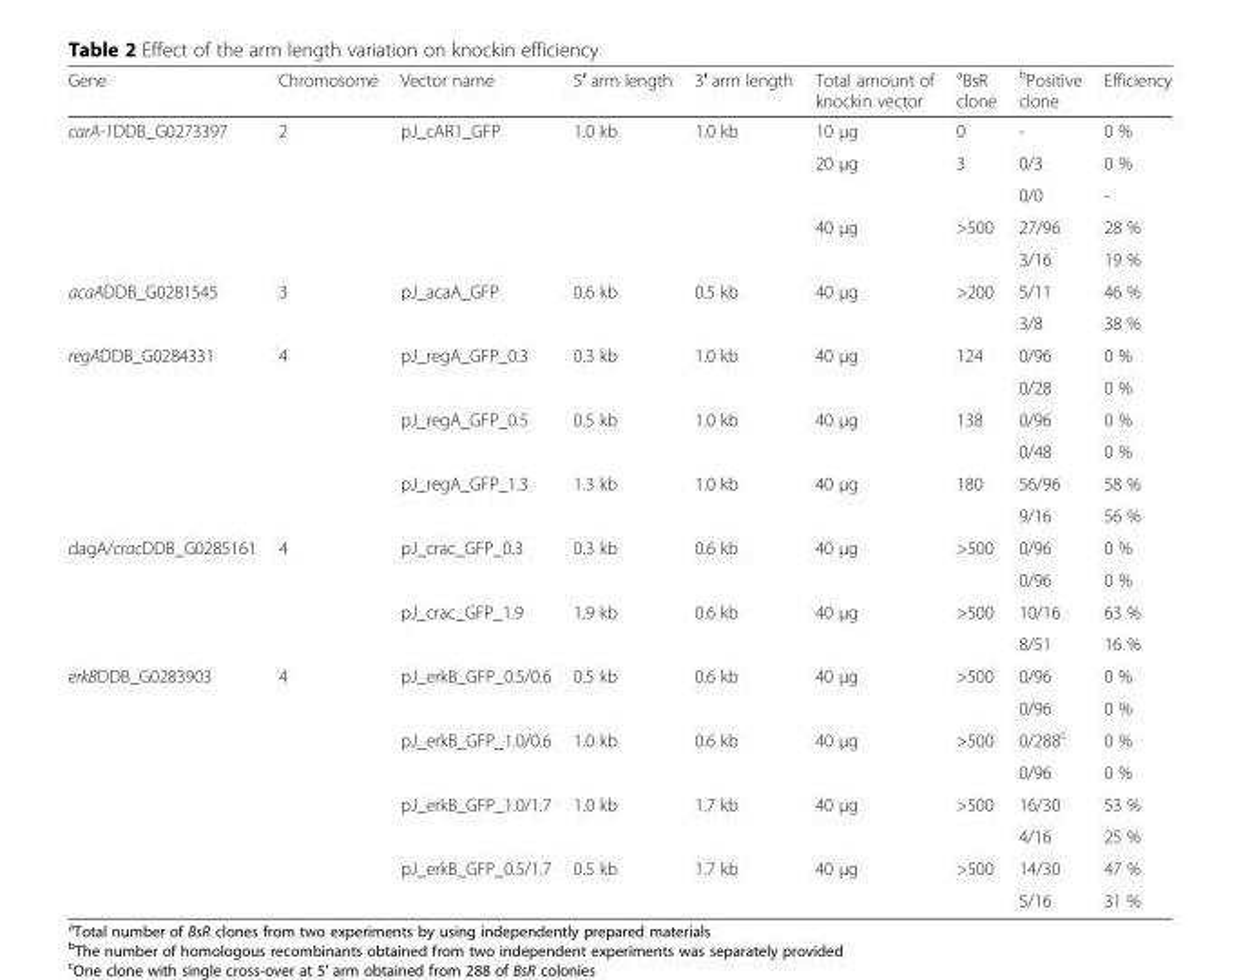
<table><thead><tr><td>Gene</td><td>Chromosome</td><td>Vector name</td><td>5′ arm length</td><td>3′ arm length</td><td>Total amount of knockin vector</td><td><sup>a</sup>BsR clone</td><td><sup>b</sup>Positive clone</td><td>Efficiency</td></tr></thead><tbody><tr><td rowspan="5">carA-1DDB_G0273397</td><td>2</td><td>pJ_cAR1_GFP</td><td>1.0 kb</td><td>1.0 kb</td><td>10 μg</td><td>0</td><td>-</td><td>0 %</td></tr><tr><td rowspan="2"></td><td rowspan="2"></td><td rowspan="2"></td><td rowspan="2"></td><td rowspan="2">20 μg</td><td rowspan="2">3</td><td>0/3</td><td>0 %</td></tr><tr><td>0/0</td><td>-</td></tr><tr><td rowspan="2"></td><td rowspan="2"></td><td rowspan="2"></td><td rowspan="2"></td><td rowspan="2">40 μg</td><td rowspan="2">&gt;500</td><td>27/96</td><td>28 %</td></tr><tr><td>3/16</td><td>19 %</td></tr><tr><td rowspan="2">acaADDB_G0281545</td><td rowspan="2">3</td><td rowspan="2">pJ_acaA_GFP</td><td rowspan="2">0.6 kb</td><td rowspan="2">0.5 kb</td><td rowspan="2">40 μg</td><td rowspan="2">&gt;200</td><td>5/11</td><td>46 %</td></tr><tr><td>3/8</td><td>38 %</td></tr><tr><td rowspan="6">regADDB_G0284331</td><td rowspan="2">4</td><td rowspan="2">pJ_regA_GFP_0.3</td><td rowspan="2">0.3 kb</td><td rowspan="2">1.0 kb</td><td rowspan="2">40 μg</td><td rowspan="2">124</td><td>0/96</td><td>0 %</td></tr><tr><td>0/28</td><td>0 %</td></tr><tr><td rowspan="2"></td><td rowspan="2">pJ_regA_GFP_0.5</td><td rowspan="2">0.5 kb</td><td rowspan="2">1.0 kb</td><td rowspan="2">40 μg</td><td rowspan="2">138</td><td>0/96</td><td>0 %</td></tr><tr><td>0/48</td><td>0 %</td></tr><tr><td rowspan="2"></td><td rowspan="2">pJ_regA_GFP_1.3</td><td rowspan="2">1.3 kb</td><td rowspan="2">1.0 kb</td><td rowspan="2">40 μg</td><td rowspan="2">180</td><td>56/96</td><td>58 %</td></tr><tr><td>9/16</td><td>56 %</td></tr><tr><td rowspan="4">dagA/cracDDB_G0285161</td><td rowspan="2">4</td><td rowspan="2">pJ_crac_GFP_0.3</td><td rowspan="2">0.3 kb</td><td rowspan="2">0.6 kb</td><td rowspan="2">40 μg</td><td rowspan="2">&gt;500</td><td>0/96</td><td>0 %</td></tr><tr><td>0/96</td><td>0 %</td></tr><tr><td rowspan="2"></td><td rowspan="2">pJ_crac_GFP_1.9</td><td rowspan="2">1.9 kb</td><td rowspan="2">0.6 kb</td><td rowspan="2">40 μg</td><td rowspan="2">&gt;500</td><td>10/16</td><td>63 %</td></tr><tr><td>8/51</td><td>16 %</td></tr><tr><td rowspan="8">erkBDDB_G0283903</td><td rowspan="2">4</td><td rowspan="2">pJ_erkB_GFP_0.5/0.6</td><td rowspan="2">0.5 kb</td><td rowspan="2">0.6 kb</td><td rowspan="2">40 μg</td><td rowspan="2">&gt;500</td><td>0/96</td><td>0 %</td></tr><tr><td>0/96</td><td>0 %</td></tr><tr><td rowspan="2"></td><td rowspan="2">pJ_erkB_GFP_1.0/0.6</td><td rowspan="2">1.0 kb</td><td rowspan="2">0.6 kb</td><td rowspan="2">40 μg</td><td rowspan="2">&gt;500</td><td>0/288<sup>c</sup></td><td>0 %</td></tr><tr><td>0/96</td><td>0 %</td></tr><tr><td rowspan="2"></td><td rowspan="2">pJ_erkB_GFP_1.0/1.7</td><td rowspan="2">1.0 kb</td><td rowspan="2">1.7 kb</td><td rowspan="2">40 μg</td><td rowspan="2">&gt;500</td><td>16/30</td><td>53 %</td></tr><tr><td>4/16</td><td>25 %</td></tr><tr><td rowspan="2"></td><td rowspan="2">pJ_erkB_GFP_0.5/1.7</td><td rowspan="2">0.5 kb</td><td rowspan="2">1.7 kb</td><td rowspan="2">40 μg</td><td rowspan="2">&gt;500</td><td>14/30</td><td>47 %</td></tr><tr><td>5/16</td><td>31 %</td></tr></tbody></table>